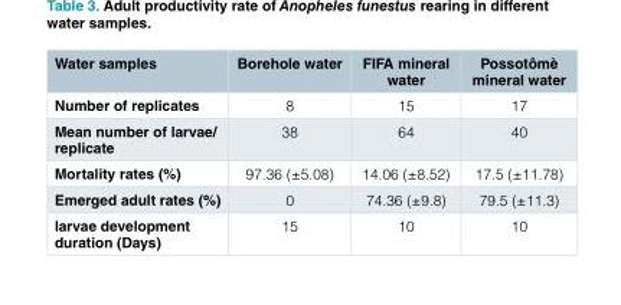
<table><thead><tr><td>Water samples</td><td>Borehole water</td><td>FIFA mineral water</td><td>Possotômè mineral water</td></tr></thead><tbody><tr><td>Number of replicates</td><td>8</td><td>15</td><td>17</td></tr><tr><td>Mean number of larvae/ replicate</td><td>38</td><td>64</td><td>40</td></tr><tr><td>Mortality rates (%)</td><td>97.36 (±5.08)</td><td>14.06 (±8.52)</td><td>17.5 (±11.78)</td></tr><tr><td>Emerged adult rates (%)</td><td>0</td><td>74.36 (±9.8)</td><td>79.5 (±11.3)</td></tr><tr><td>larvae development duration (Days)</td><td>15</td><td>10</td><td>10</td></tr></tbody></table>